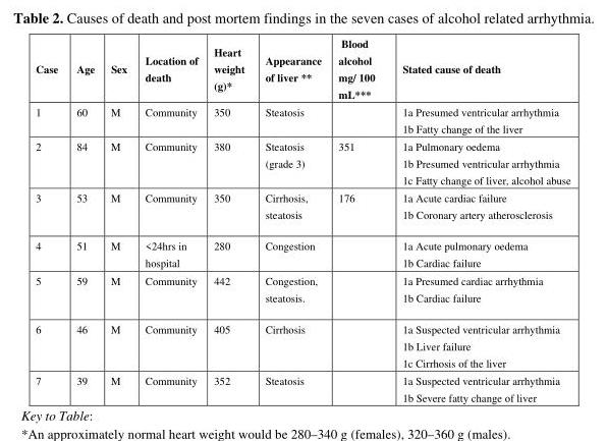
<table><thead><tr><td>Case</td><td>Age</td><td>Sex</td><td>Location of death</td><td>Heart weight (g)*</td><td>Appearance of liver **</td><td>Blood alcohol mg/ 100 mL***</td><td>Stated cause of death</td></tr></thead><tbody><tr><td>1</td><td>60</td><td>M</td><td>Community</td><td>350</td><td>Steatosis</td><td></td><td>1a Presumed ventricular arrhythmia 1b Fatty change of the liver</td></tr><tr><td>2</td><td>84</td><td>M</td><td>Community</td><td>380</td><td>Steatosis (grade 3)</td><td>351</td><td>1a Pulmonary oedema 1b Presumed ventricular arrhythmia 1c Fatty change of liver, alcohol abuse</td></tr><tr><td>3</td><td>53</td><td>M</td><td>Community</td><td>350</td><td>Cirrhosis, steatosis</td><td>176</td><td>1a Acute cardiac failure 1b Coronary artery atherosclerosis</td></tr><tr><td>4</td><td>51</td><td>M</td><td>&lt;24hrs in hospital</td><td>280</td><td>Congestion</td><td></td><td>1a Acute pulmonary oedema 1b Cardiac failure</td></tr><tr><td>5</td><td>59</td><td>M</td><td>Community</td><td>442</td><td>Congestion, steatosis.</td><td></td><td>1a Presumed cardiac arrhythmia 1b Cardiac failure</td></tr><tr><td>6</td><td>46</td><td>M</td><td>Community</td><td>405</td><td>Cirrhosis</td><td></td><td>1a Suspected ventricular arrhythmia 1b Liver failure 1c Cirrhosis of the liver</td></tr><tr><td>7</td><td>39</td><td>M</td><td>Community</td><td>352</td><td>Steatosis</td><td></td><td>1a Suspected ventricular arrhythmia 1b Severe fatty change of liver</td></tr></tbody></table>